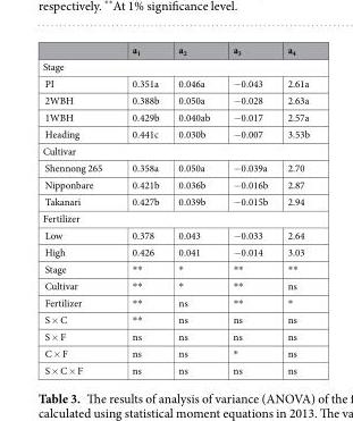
<table><thead><tr><td></td><td>a<sub>1</sub></td><td>a<sub>2</sub></td><td>a<sub>3</sub></td><td>a<sub>4</sub></td></tr></thead><tbody><tr><td colspan="5">Stage</td></tr><tr><td>PI</td><td>0.351a</td><td>0.046a</td><td>−0.043</td><td>2.61a</td></tr><tr><td>2WBH</td><td>0.388b</td><td>0.050a</td><td>−0.028</td><td>2.63a</td></tr><tr><td>1WBH</td><td>0.429b</td><td>0.040ab</td><td>−0.017</td><td>2.57a</td></tr><tr><td>Heading</td><td>0.441c</td><td>0.030b</td><td>−0.007</td><td>3.53b</td></tr><tr><td colspan="5">Cultivar</td></tr><tr><td>Shennong 265</td><td>0.358a</td><td>0.050a</td><td>−0.039a</td><td>2.70</td></tr><tr><td>Nipponbare</td><td>0.421b</td><td>0.036b</td><td>−0.016b</td><td>2.87</td></tr><tr><td>Takanari</td><td>0.427b</td><td>0.039b</td><td>−0.015b</td><td>2.94</td></tr><tr><td colspan="5">Fertilizer</td></tr><tr><td>Low</td><td>0.378</td><td>0.043</td><td>−0.033</td><td>2.64</td></tr><tr><td>High</td><td>0.426</td><td>0.041</td><td>−0.014</td><td>3.03</td></tr><tr><td>Stage</td><td>**</td><td>*</td><td>**</td><td>**</td></tr><tr><td>Cultivar</td><td>**</td><td>*</td><td>**</td><td>ns</td></tr><tr><td>Fertilizer</td><td>**</td><td>ns</td><td>**</td><td>*</td></tr><tr><td>S × C</td><td>**</td><td>ns</td><td>ns</td><td>ns</td></tr><tr><td>S × F</td><td>ns</td><td>ns</td><td>ns</td><td>ns</td></tr><tr><td>C × F</td><td>ns</td><td>ns</td><td>*</td><td>ns</td></tr><tr><td>S × C × F</td><td>ns</td><td>ns</td><td>ns</td><td>ns</td></tr></tbody></table>